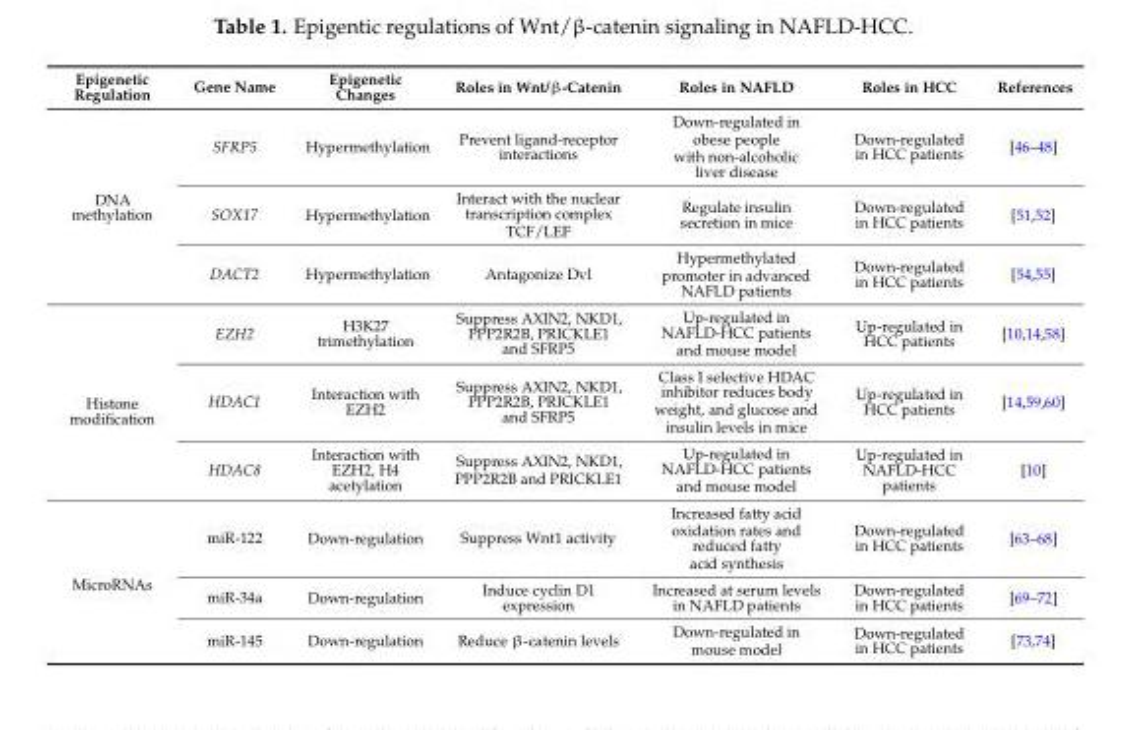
<table><thead><tr><td>Epigenetic Regulation</td><td>Gene Name</td><td>Epigenetic Changes</td><td>Roles in Wnt/β-Catenin</td><td>Roles in NAFLD</td><td>Roles in HCC</td><td>References</td></tr></thead><tbody><tr><td rowspan="3">DNA methylation</td><td>SFRP5</td><td>Hypermethylation</td><td>Prevent ligand-receptor interactions</td><td>Down-regulated in obese people with non-alcoholic liver disease</td><td>Down-regulated in HCC patients</td><td>[46–48]</td></tr><tr><td>SOX17</td><td>Hypermethylation</td><td>Interact with the nuclear transcription complex TCF/LEF</td><td>Regulate insulin secretion in mice</td><td>Down-regulated in HCC patients</td><td>[51,52]</td></tr><tr><td>DACT2</td><td>Hypermethylation</td><td>Antagonize Dvl</td><td>Hypermethylated promoter in advanced NAFLD patients</td><td>Down-regulated in HCC patients</td><td>[54,55]</td></tr><tr><td rowspan="3">Histone modification</td><td>EZH2</td><td>H3K27 trimethylation</td><td>Suppress AXIN2, NKD1, PPP2R2B, PRICKLE1 and SFRP5</td><td>Up-regulated in NAFLD-HCC patients and mouse model</td><td>Up-regulated in HCC patients</td><td>[10,14,58]</td></tr><tr><td>HDAC1</td><td>Interaction with EZH2</td><td>Suppress AXIN2, NKD1, PPP2R2B, PRICKLE1 and SFRP5</td><td>Class I selective HDAC inhibitor reduces body weight, and glucose and insulin levels in mice</td><td>Up-regulated in HCC patients</td><td>[14,59,60]</td></tr><tr><td>HDAC8</td><td>Interaction with EZH2, H4 acetylation</td><td>Suppress AXIN2, NKD1, PPP2R2B and PRICKLE1</td><td>Up-regulated in NAFLD-HCC patients and mouse model</td><td>Up-regulated in NAFLD-HCC patients</td><td>[10]</td></tr><tr><td rowspan="3">MicroRNAs</td><td>miR-122</td><td>Down-regulation</td><td>Suppress Wnt1 activity</td><td>Increased fatty acid oxidation rates and reduced fatty acid synthesis</td><td>Down-regulated in HCC patients</td><td>[63–68]</td></tr><tr><td>miR-34a</td><td>Down-regulation</td><td>Induce cyclin D1 expression</td><td>Increased at serum levels in NAFLD patients</td><td>Down-regulated in HCC patients</td><td>[69–72]</td></tr><tr><td>miR-145</td><td>Down-regulation</td><td>Reduce β-catenin levels</td><td>Down-regulated in mouse model</td><td>Down-regulated in HCC patients</td><td>[73,74]</td></tr></tbody></table>